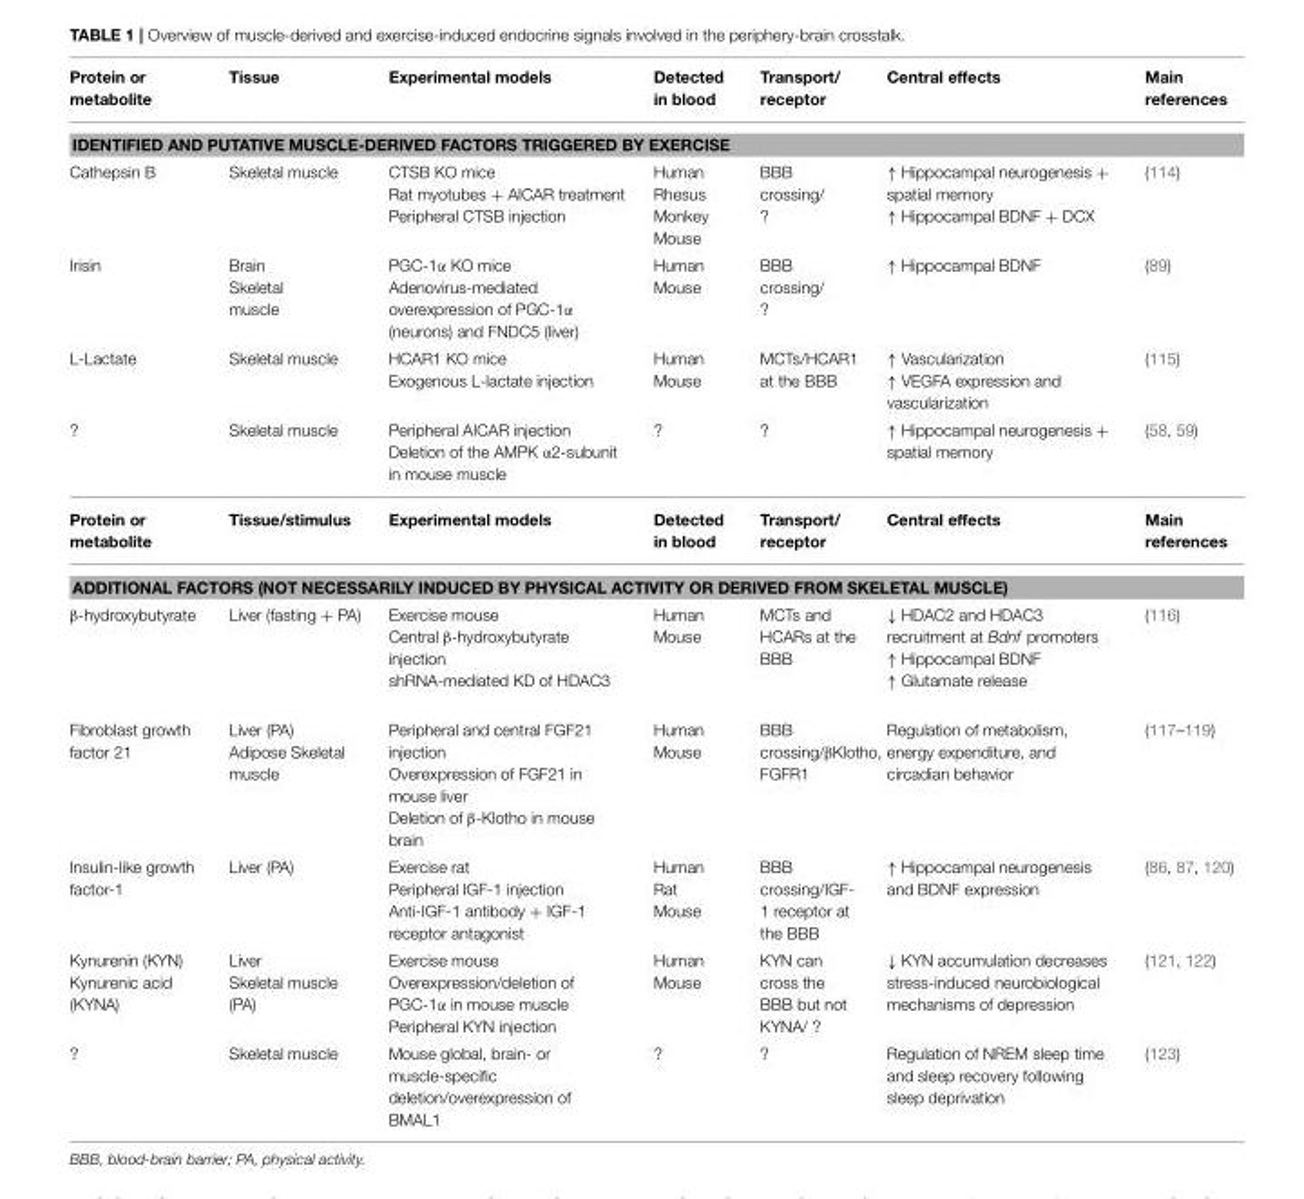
<table><thead><tr><td>Protein or metabolite</td><td>Tissue</td><td>Experimental models</td><td>Detected in blood</td><td>Transport/ receptor</td><td>Central effects</td><td>Main references</td></tr></thead><tbody><tr><td colspan="7">IDENTIFIED AND PUTATIVE MUSCLE-DERIVED FACTORS TRIGGERED BY EXERCISE</td></tr><tr><td>Cathepsin B</td><td>Skeletal muscle</td><td>CTSB KO mice Rat myotubes + AICAR treatment Peripheral CTSB injection</td><td>Human Rhesus Monkey Mouse</td><td>BBB crossing/ ?</td><td>↑ Hippocampal neurogenesis + spatial memory ↑ Hippocampal BDNF + DCX</td><td>(114)</td></tr><tr><td>Irisin</td><td>Brain Skeletal muscle</td><td>PGC-1α KO mice Adenovirus-mediated overexpression of PGC-1α (neurons) and FNDC5 (liver)</td><td>Human Mouse</td><td>BBB crossing/ ?</td><td>↑ Hippocampal BDNF</td><td>(89)</td></tr><tr><td>L-Lactate</td><td>Skeletal muscle</td><td>HCAR1 KO mice Exogenous L-lactate injection</td><td>Human Mouse</td><td>MCTs/HCAR1 at the BBB</td><td>↑ Vascularization ↑ VEGFA expression and vascularization</td><td>(115)</td></tr><tr><td>?</td><td>Skeletal muscle</td><td>Peripheral AICAR injection Deletion of the AMPK α2-subunit in mouse muscle</td><td>?</td><td>?</td><td>↑ Hippocampal neurogenesis + spatial memory</td><td>(58, 59)</td></tr><tr><td>Protein or metabolite</td><td>Tissue/stimulus</td><td>Experimental models</td><td>Detected in blood</td><td>Transport/ receptor</td><td>Central effects</td><td>Main references</td></tr><tr><td colspan="7">ADDITIONAL FACTORS (NOT NECESSARILY INDUCED BY PHYSICAL ACTIVITY OR DERIVED FROM SKELETAL MUSCLE)</td></tr><tr><td>β-hydroxybutyrate</td><td>Liver (fasting + PA)</td><td>Exercise mouse Central β-hydroxybutyrate injection shRNA-mediated KD of HDAC3</td><td>Human Mouse</td><td>MCTs and HCARs at the BBB</td><td>↓ HDAC2 and HDAC3 recruitment at Bdnf promoters ↑ Hippocampal BDNF ↑ Glutamate release</td><td>(116)</td></tr><tr><td>Fibroblast growth factor 21</td><td>Liver (PA) Adipose Skeletal muscle</td><td>Peripheral and central FGF21 injection Overexpression of FGF21 in mouse liver Deletion of β-Klotho in mouse brain</td><td>Human Mouse</td><td>BBB crossing/βKlotho, FGFR1</td><td>Regulation of metabolism, energy expenditure, and circadian behavior</td><td>(117–119)</td></tr><tr><td>Insulin-like growth factor-1</td><td>Liver (PA)</td><td>Exercise rat Peripheral IGF-1 injection Anti-IGF-1 antibody + IGF-1 receptor antagonist</td><td>Human Rat Mouse</td><td>BBB crossing/IGF- 1 receptor at the BBB</td><td>↑ Hippocampal neurogenesis and BDNF expression</td><td>(86, 87, 120)</td></tr><tr><td>Kynurenin (KYN) Kynurenic acid (KYNA)</td><td>Liver Skeletal muscle (PA)</td><td>Exercise mouse Overexpression/deletion of PGC-1α in mouse muscle Peripheral KYN injection</td><td>Human Mouse</td><td>KYN can cross the BBB but not KYNA/ ?</td><td>↓ KYN accumulation decreases stress-induced neurobiological mechanisms of depression</td><td>(121, 122)</td></tr><tr><td>?</td><td>Skeletal muscle</td><td>Mouse global, brain- or muscle-specific deletion/overexpression of BMAL1</td><td>?</td><td>?</td><td>Regulation of NREM sleep time and sleep recovery following sleep deprivation</td><td>(123)</td></tr></tbody></table>